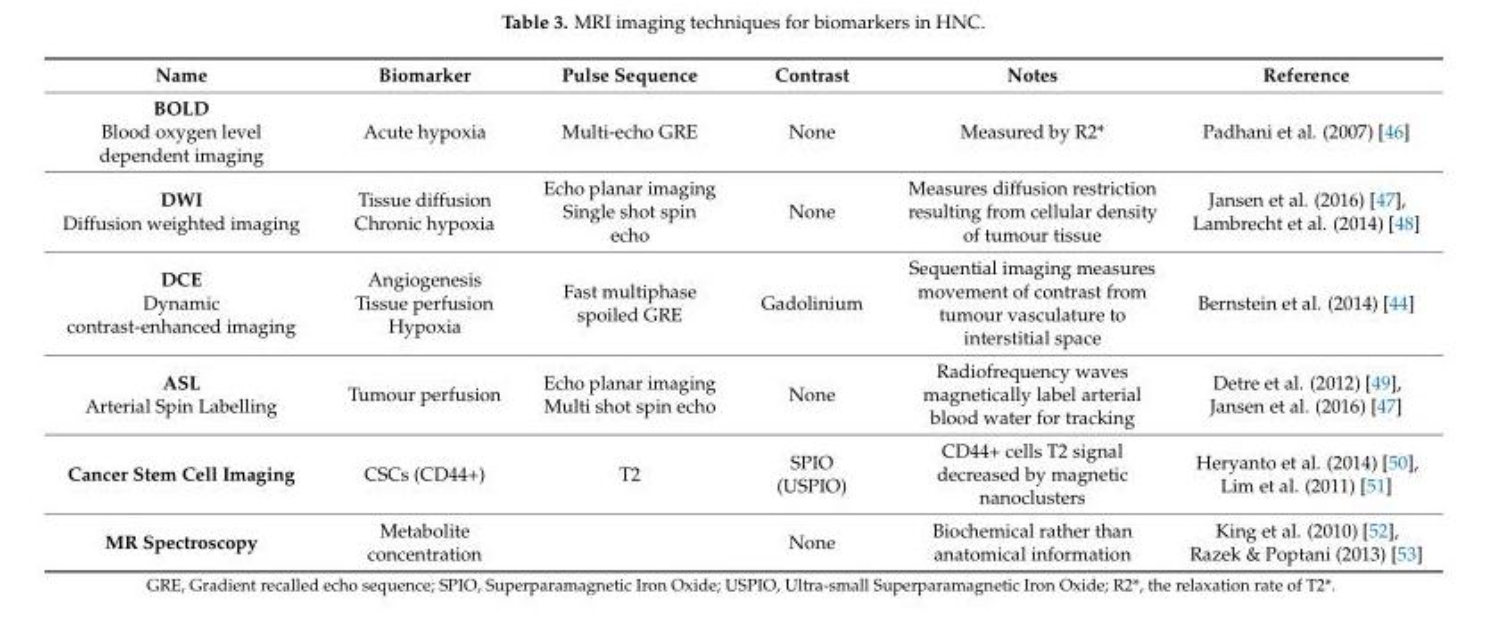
<table><thead><tr><td>Name</td><td>Biomarker</td><td>Pulse Sequence</td><td>Contrast</td><td>Notes</td><td>Reference</td></tr></thead><tbody><tr><td>BOLD Blood oxygen level dependent imaging</td><td>Acute hypoxia</td><td>Multi-echo GRE</td><td>None</td><td>Measured by R2*</td><td>Padhani et al. (2007) [46]</td></tr><tr><td>DWI Diffusion weighted imaging</td><td>Tissue diffusion Chronic hypoxia</td><td>Echo planar imaging Single shot spin echo</td><td>None</td><td>Measures diffusion restriction resulting from cellular density of tumour tissue</td><td>Jansen et al. (2016) [47], Lambrecht et al. (2014) [48]</td></tr><tr><td>DCE Dynamic contrast-enhanced imaging</td><td>Angiogenesis Tissue perfusion Hypoxia</td><td>Fast multiphase spoiled GRE</td><td>Gadolinium</td><td>Sequential imaging measures movement of contrast from tumour vasculature to interstitial space</td><td>Bernstein et al. (2014) [44]</td></tr><tr><td>ASL Arterial Spin Labelling</td><td>Tumour perfusion</td><td>Echo planar imaging Multi shot spin echo</td><td>None</td><td>Radiofrequency waves magnetically label arterial blood water for tracking</td><td>Detre et al. (2012) [49], Jansen et al. (2016) [47]</td></tr><tr><td>Cancer Stem Cell Imaging</td><td>CSCs (CD44+)</td><td>T2</td><td>SPIO (USPIO)</td><td>CD44+ cells T2 signal decreased by magnetic nanoclusters</td><td>Heryanto et al. (2014) [50], Lim et al. (2011) [51]</td></tr><tr><td>MR Spectroscopy</td><td>Metabolite concentration</td><td></td><td>None</td><td>Biochemical rather than anatomical information</td><td>King et al. (2010) [52], Razek &amp; Poptani (2013) [53]</td></tr></tbody></table>